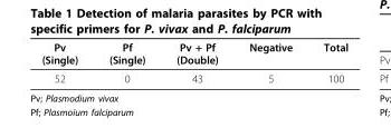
<table><thead><tr><td>Pv (Single)</td><td>Pf (Single)</td><td>Pv + Pf (Double)</td><td>Negative</td><td>Total</td></tr></thead><tbody><tr><td>52</td><td>0</td><td>43</td><td>5</td><td>100</td></tr></tbody></table>